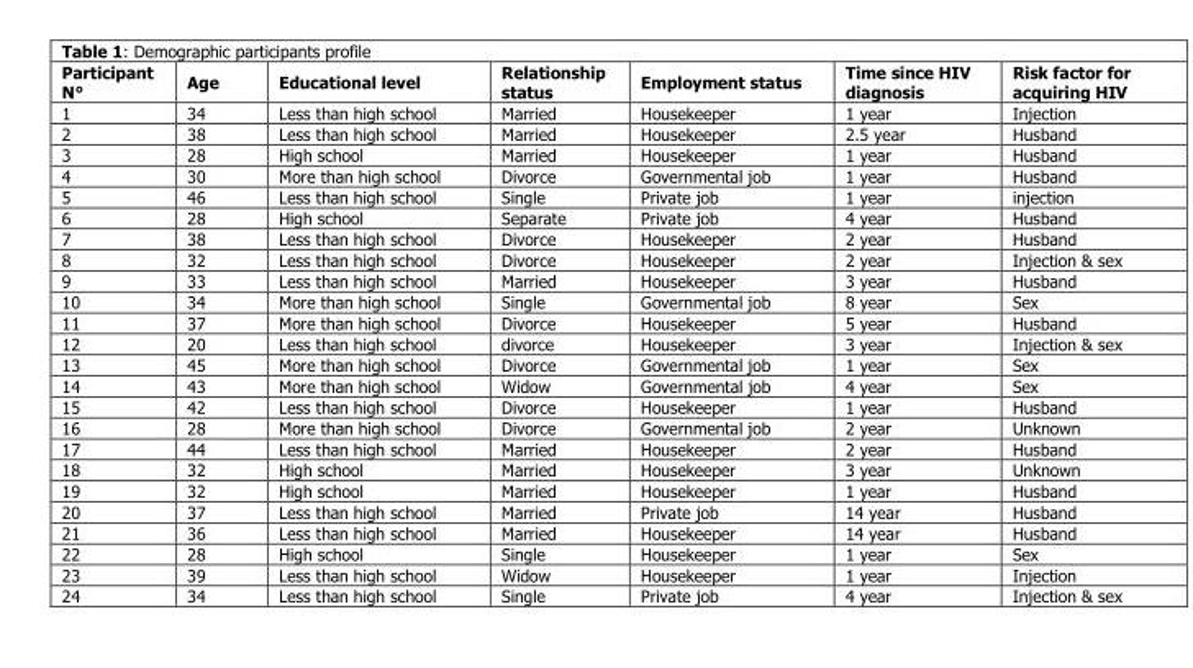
<table><thead><tr><td>Participant N°</td><td>Age</td><td>Educational level</td><td>Relationship status</td><td>Employment status</td><td>Time since HIV diagnosis</td><td>Risk factor for acquiring HIV</td></tr></thead><tbody><tr><td>1</td><td>34</td><td>Less than high school</td><td>Married</td><td>Housekeeper</td><td>1 year</td><td>Injection</td></tr><tr><td>2</td><td>38</td><td>Less than high school</td><td>Married</td><td>Housekeeper</td><td>2.5 year</td><td>Husband</td></tr><tr><td>3</td><td>28</td><td>High school</td><td>Married</td><td>Housekeeper</td><td>1 year</td><td>Husband</td></tr><tr><td>4</td><td>30</td><td>More than high school</td><td>Divorce</td><td>Governmental job</td><td>1 year</td><td>Husband</td></tr><tr><td>5</td><td>46</td><td>Less than high school</td><td>Single</td><td>Private job</td><td>1 year</td><td>injection</td></tr><tr><td>6</td><td>28</td><td>High school</td><td>Separate</td><td>Private job</td><td>4 year</td><td>Husband</td></tr><tr><td>7</td><td>38</td><td>Less than high school</td><td>Divorce</td><td>Housekeeper</td><td>2 year</td><td>Husband</td></tr><tr><td>8</td><td>32</td><td>Less than high school</td><td>Divorce</td><td>Housekeeper</td><td>2 year</td><td>Injection &amp; sex</td></tr><tr><td>9</td><td>33</td><td>Less than high school</td><td>Married</td><td>Housekeeper</td><td>3 year</td><td>Husband</td></tr><tr><td>10</td><td>34</td><td>More than high school</td><td>Single</td><td>Governmental job</td><td>8 year</td><td>Sex</td></tr><tr><td>11</td><td>37</td><td>More than high school</td><td>Divorce</td><td>Housekeeper</td><td>5 year</td><td>Husband</td></tr><tr><td>12</td><td>20</td><td>Less than high school</td><td>divorce</td><td>Housekeeper</td><td>3 year</td><td>Injection &amp; sex</td></tr><tr><td>13</td><td>45</td><td>More than high school</td><td>Divorce</td><td>Governmental job</td><td>1 year</td><td>Sex</td></tr><tr><td>14</td><td>43</td><td>More than high school</td><td>Widow</td><td>Governmental job</td><td>4 year</td><td>Sex</td></tr><tr><td>15</td><td>42</td><td>Less than high school</td><td>Divorce</td><td>Housekeeper</td><td>1 year</td><td>Husband</td></tr><tr><td>16</td><td>28</td><td>More than high school</td><td>Divorce</td><td>Governmental job</td><td>2 year</td><td>Unknown</td></tr><tr><td>17</td><td>44</td><td>Less than high school</td><td>Married</td><td>Housekeeper</td><td>2 year</td><td>Husband</td></tr><tr><td>18</td><td>32</td><td>High school</td><td>Married</td><td>Housekeeper</td><td>3 year</td><td>Unknown</td></tr><tr><td>19</td><td>32</td><td>High school</td><td>Married</td><td>Housekeeper</td><td>1 year</td><td>Husband</td></tr><tr><td>20</td><td>37</td><td>Less than high school</td><td>Married</td><td>Private job</td><td>14 year</td><td>Husband</td></tr><tr><td>21</td><td>36</td><td>Less than high school</td><td>Married</td><td>Housekeeper</td><td>14 year</td><td>Husband</td></tr><tr><td>22</td><td>28</td><td>High school</td><td>Single</td><td>Housekeeper</td><td>1 year</td><td>Sex</td></tr><tr><td>23</td><td>39</td><td>Less than high school</td><td>Widow</td><td>Housekeeper</td><td>1 year</td><td>Injection</td></tr><tr><td>24</td><td>34</td><td>Less than high school</td><td>Single</td><td>Private job</td><td>4 year</td><td>Injection &amp; sex</td></tr></tbody></table>